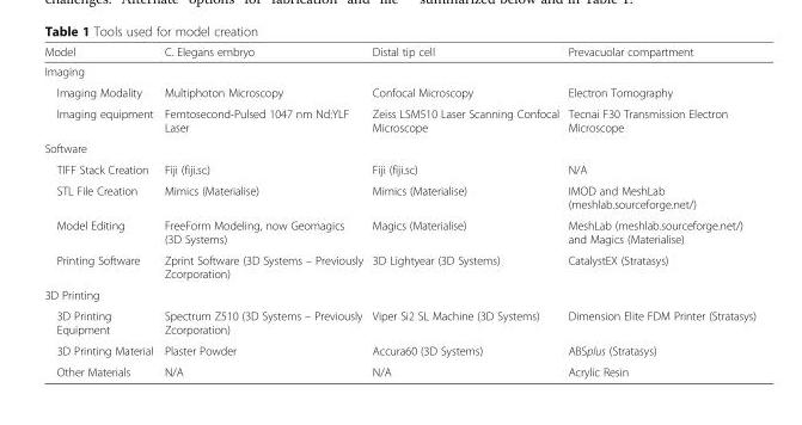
<table><thead><tr><td>Model</td><td>C. Elegans embryo</td><td>Distal tip cell</td><td>Prevacuolar compartment</td></tr></thead><tbody><tr><td colspan="4">Imaging</td></tr><tr><td>Imaging Modality</td><td>Multiphoton Microscopy</td><td>Confocal Microscopy</td><td>Electron Tomography</td></tr><tr><td>Imaging equipment</td><td>Femtosecond-Pulsed 1047 nm Nd:YLF Laser</td><td>Zeiss LSM510 Laser Scanning Confocal Microscope</td><td>Tecnai F30 Transmission Electron Microscope</td></tr><tr><td colspan="4">Software</td></tr><tr><td>TIFF Stack Creation</td><td>Fiji (fiji.sc)</td><td>Fiji (fiji.sc)</td><td>N/A</td></tr><tr><td>STL File Creation</td><td>Mimics (Materialise)</td><td>Mimics (Materialise)</td><td>IMOD and MeshLab (meshlab.sourceforge.net/)</td></tr><tr><td>Model Editing</td><td>FreeForm Modeling, now Geomagics (3D Systems)</td><td>Magics (Materialise)</td><td>MeshLab (meshlab.sourceforge.net/) and Magics (Materialise)</td></tr><tr><td>Printing Software</td><td>Zprint Software (3D Systems – Previously Zcorporation)</td><td>3D Lightyear (3D Systems)</td><td>CatalystEX (Stratasys)</td></tr><tr><td colspan="4">3D Printing</td></tr><tr><td>3D Printing Equipment</td><td>Spectrum Z510 (3D Systems – Previously Zcorporation)</td><td>Viper Si2 SL Machine (3D Systems)</td><td>Dimension Elite FDM Printer (Stratasys)</td></tr><tr><td>3D Printing Material</td><td>Plaster Powder</td><td>Accura60 (3D Systems)</td><td>ABSplus (Stratasys)</td></tr><tr><td>Other Materials</td><td>N/A</td><td>N/A</td><td>Acrylic Resin</td></tr></tbody></table>